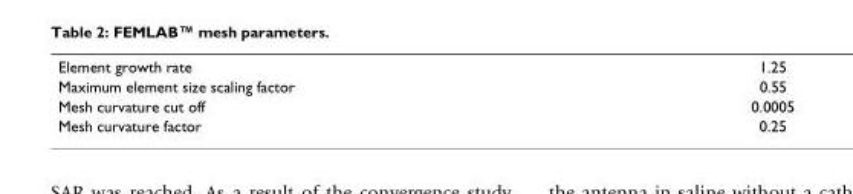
<table><tbody><tr><td>Element growth rate</td><td>1.25</td></tr><tr><td>Maximum element size scaling factor</td><td>0.55</td></tr><tr><td>Mesh curvature cut off</td><td>0.0005</td></tr><tr><td>Mesh curvature factor</td><td>0.25</td></tr></tbody></table>